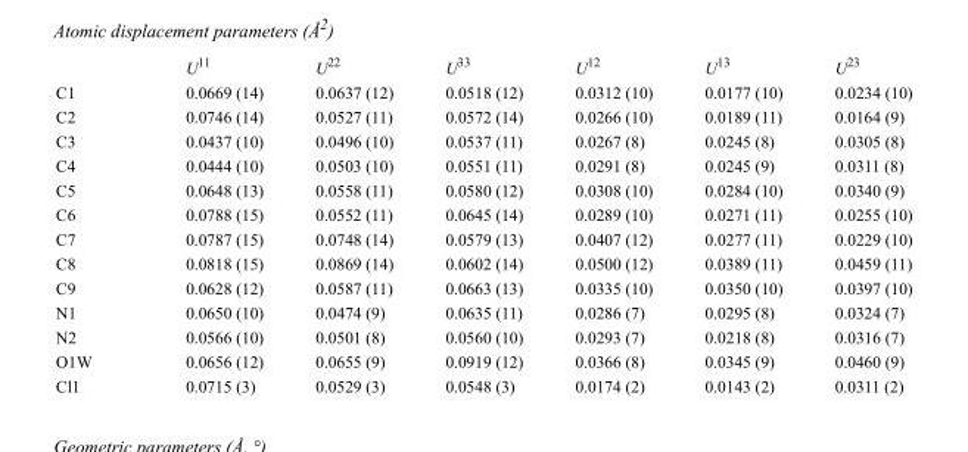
<table><thead><tr><td></td><td>U<sup>11</sup></td><td>U<sup>22</sup></td><td>U<sup>33</sup></td><td>U<sup>12</sup></td><td>U<sup>13</sup></td><td>U<sup>23</sup></td></tr></thead><tbody><tr><td>C1</td><td>0.0669 (14)</td><td>0.0637 (12)</td><td>0.0518 (12)</td><td>0.0312 (10)</td><td>0.0177 (10)</td><td>0.0234 (10)</td></tr><tr><td>C2</td><td>0.0746 (14)</td><td>0.0527 (11)</td><td>0.0572 (14)</td><td>0.0266 (10)</td><td>0.0189 (11)</td><td>0.0164 (9)</td></tr><tr><td>C3</td><td>0.0437 (10)</td><td>0.0496 (10)</td><td>0.0537 (11)</td><td>0.0267 (8)</td><td>0.0245 (8)</td><td>0.0305 (8)</td></tr><tr><td>C4</td><td>0.0444 (10)</td><td>0.0503 (10)</td><td>0.0551 (11)</td><td>0.0291 (8)</td><td>0.0245 (9)</td><td>0.0311 (8)</td></tr><tr><td>C5</td><td>0.0648 (13)</td><td>0.0558 (11)</td><td>0.0580 (12)</td><td>0.0308 (10)</td><td>0.0284 (10)</td><td>0.0340 (9)</td></tr><tr><td>C6</td><td>0.0788 (15)</td><td>0.0552 (11)</td><td>0.0645 (14)</td><td>0.0289 (10)</td><td>0.0271 (11)</td><td>0.0255 (10)</td></tr><tr><td>C7</td><td>0.0787 (15)</td><td>0.0748 (14)</td><td>0.0579 (13)</td><td>0.0407 (12)</td><td>0.0277 (11)</td><td>0.0229 (10)</td></tr><tr><td>C8</td><td>0.0818 (15)</td><td>0.0869 (14)</td><td>0.0602 (14)</td><td>0.0500 (12)</td><td>0.0389 (11)</td><td>0.0459 (11)</td></tr><tr><td>C9</td><td>0.0628 (12)</td><td>0.0587 (11)</td><td>0.0663 (13)</td><td>0.0335 (10)</td><td>0.0350 (10)</td><td>0.0397 (10)</td></tr><tr><td>N1</td><td>0.0650 (10)</td><td>0.0474 (9)</td><td>0.0635 (11)</td><td>0.0286 (7)</td><td>0.0295 (8)</td><td>0.0324 (7)</td></tr><tr><td>N2</td><td>0.0566 (10)</td><td>0.0501 (8)</td><td>0.0560 (10)</td><td>0.0293 (7)</td><td>0.0218 (8)</td><td>0.0316 (7)</td></tr><tr><td>O1W</td><td>0.0656 (12)</td><td>0.0655 (9)</td><td>0.0919 (12)</td><td>0.0366 (8)</td><td>0.0345 (9)</td><td>0.0460 (9)</td></tr><tr><td>Cl1</td><td>0.0715 (3)</td><td>0.0529 (3)</td><td>0.0548 (3)</td><td>0.0174 (2)</td><td>0.0143 (2)</td><td>0.0311 (2)</td></tr></tbody></table>